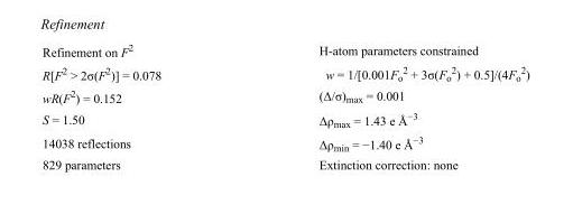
<table><tbody><tr><td>Refinement on F<sup>2</sup></td><td>H-atom parameters constrained</td></tr><tr><td>R[F<sup>2</sup> &gt; 2σ(F<sup>2</sup>)] = 0.078</td><td>w = 1/[0.001F<sub>o</sub> <sup>2</sup> + 3σ(F<sub>o</sub> <sup>2</sup>) + 0.5]/(4F<sub>o</sub> <sup>2</sup>)</td></tr><tr><td>wR(F<sup>2</sup>) = 0.152</td><td>(Δ/σ)<sub>max</sub> = 0.001</td></tr><tr><td>S = 1.50</td><td>Δρ<sub>max</sub> = 1.43 e Å<sup>−3</sup></td></tr><tr><td>14038 reflections</td><td>Δρ<sub>min</sub> = −1.40 e Å<sup>−3</sup></td></tr><tr><td>829 parameters</td><td>Extinction correction: none</td></tr></tbody></table>